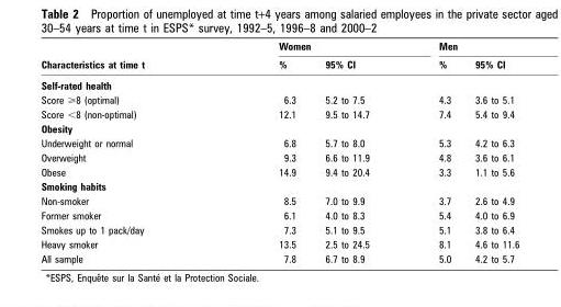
<table><thead><tr><td rowspan="2">Characteristics at time t</td><td colspan="2">Women</td><td colspan="2">Men</td></tr><tr><td>%</td><td>95% CI</td><td>%</td><td>95% CI</td></tr></thead><tbody><tr><td colspan="5">Self-rated health</td></tr><tr><td>Score &gt;8 (optimal)</td><td>6.3</td><td>5.2 to 7.5</td><td>4.3</td><td>3.6 to 5.1</td></tr><tr><td>Score &lt;8 (non-optimal)</td><td>12.1</td><td>9.5 to 14.7</td><td>7.4</td><td>5.4 to 9.4</td></tr><tr><td colspan="5">Obesity</td></tr><tr><td>Underweight or normal</td><td>6.8</td><td>5.7 to 8.0</td><td>5.3</td><td>4.2 to 6.3</td></tr><tr><td>Overweight</td><td>9.3</td><td>6.6 to 11.9</td><td>4.8</td><td>3.6 to 6.1</td></tr><tr><td>Obese</td><td>14.9</td><td>9.4 to 20.4</td><td>3.3</td><td>1.1 to 5.6</td></tr><tr><td colspan="5">Smoking habits</td></tr><tr><td>Non-smoker</td><td>8.5</td><td>7.0 to 9.9</td><td>3.7</td><td>2.6 to 4.9</td></tr><tr><td>Former smoker</td><td>6.1</td><td>4.0 to 8.3</td><td>5.4</td><td>4.0 to 6.9</td></tr><tr><td>Smokes up to 1 pack/day</td><td>7.3</td><td>5.1 to 9.5</td><td>5.1</td><td>3.8 to 6.4</td></tr><tr><td>Heavy smoker</td><td>13.5</td><td>2.5 to 24.5</td><td>8.1</td><td>4.6 to 11.6</td></tr><tr><td>All sample</td><td>7.8</td><td>6.7 to 8.9</td><td>5.0</td><td>4.2 to 5.7</td></tr></tbody></table>